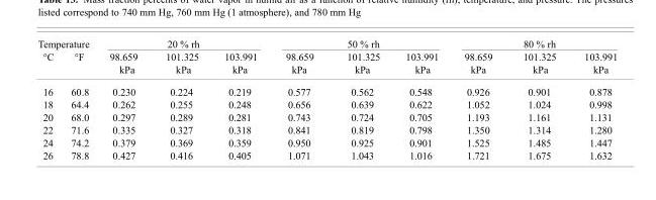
<table><thead><tr><td colspan="2">Temperature</td><td colspan="3">20 % rh</td><td colspan="3">50 % rh</td><td colspan="3">80 % rh</td></tr><tr><td>°C</td><td>°F</td><td>98.659 kPa</td><td>101.325 kPa</td><td>103.991 kPa</td><td>98.659 kPa</td><td>101.325 kPa</td><td>103.991 kPa</td><td>98.659 kPa</td><td>101.325 kPa</td><td>103.991 kPa</td></tr></thead><tbody><tr><td>16</td><td>60.8</td><td>0.230</td><td>0.224</td><td>0.219</td><td>0.577</td><td>0.562</td><td>0.548</td><td>0.926</td><td>0.901</td><td>0.878</td></tr><tr><td>18</td><td>64.4</td><td>0.262</td><td>0.255</td><td>0.248</td><td>0.656</td><td>0.639</td><td>0.622</td><td>1.052</td><td>1.024</td><td>0.998</td></tr><tr><td>20</td><td>68.0</td><td>0.297</td><td>0.289</td><td>0.281</td><td>0.743</td><td>0.724</td><td>0.705</td><td>1.193</td><td>1.161</td><td>1.131</td></tr><tr><td>22</td><td>71.6</td><td>0.335</td><td>0.327</td><td>0.318</td><td>0.841</td><td>0.819</td><td>0.798</td><td>1.350</td><td>1.314</td><td>1.280</td></tr><tr><td>24</td><td>74.2</td><td>0.379</td><td>0.369</td><td>0.359</td><td>0.950</td><td>0.925</td><td>0.901</td><td>1.525</td><td>1.485</td><td>1.447</td></tr><tr><td>26</td><td>78.8</td><td>0.427</td><td>0.416</td><td>0.405</td><td>1.071</td><td>1.043</td><td>1.016</td><td>1.721</td><td>1.675</td><td>1.632</td></tr></tbody></table>